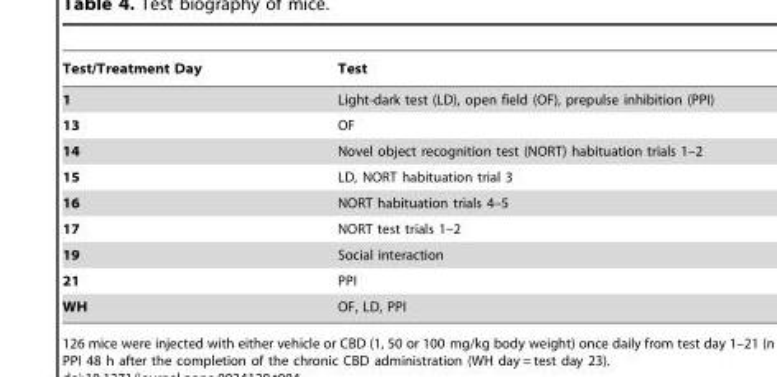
<table><thead><tr><td>Test/Treatment Day</td><td>Test</td></tr></thead><tbody><tr><td>1</td><td>Light-dark test (LD), open field (OF), prepulse inhibition (PPI)</td></tr><tr><td>13</td><td>OF</td></tr><tr><td>14</td><td>Novel object recognition test (NORT) habituation trials 1–2</td></tr><tr><td>15</td><td>LD, NORT habituation trial 3</td></tr><tr><td>16</td><td>NORT habituation trials 4–5</td></tr><tr><td>17</td><td>NORT test trials 1–2</td></tr><tr><td>19</td><td>Social interaction</td></tr><tr><td>21</td><td>PPI</td></tr><tr><td>WH</td><td>OF, LD, PPI</td></tr></tbody></table>